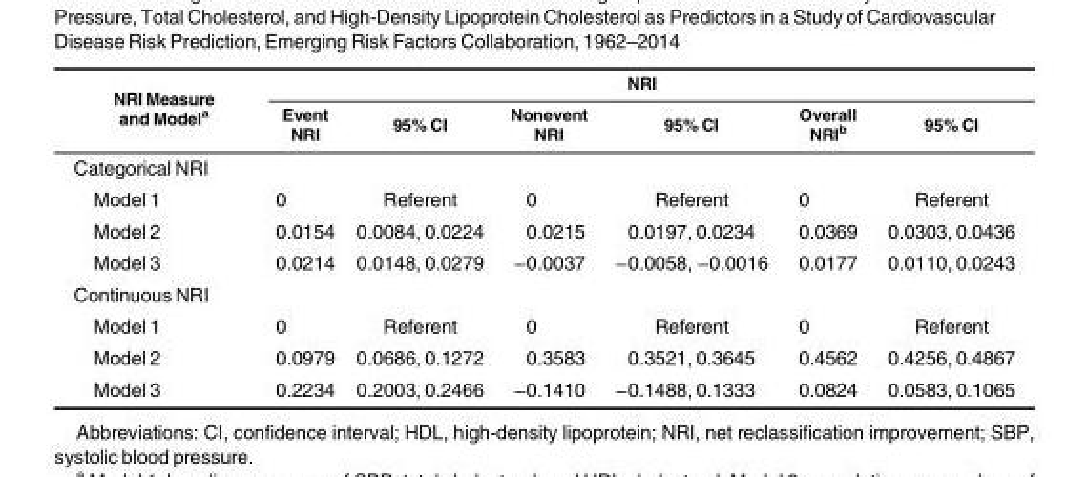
<table><thead><tr><td rowspan="2">NRI Measure and Model<sup>a</sup></td><td colspan="6">NRI</td></tr><tr><td>Event NRI</td><td>95% CI</td><td>Nonevent NRI</td><td>95% CI</td><td>Overall NRI<sup>b</sup></td><td>95% CI</td></tr></thead><tbody><tr><td colspan="7">Categorical NRI</td></tr><tr><td>Model 1</td><td>0</td><td>Referent</td><td>0</td><td>Referent</td><td>0</td><td>Referent</td></tr><tr><td>Model 2</td><td>0.0154</td><td>0.0084, 0.0224</td><td>0.0215</td><td>0.0197, 0.0234</td><td>0.0369</td><td>0.0303, 0.0436</td></tr><tr><td>Model 3</td><td>0.0214</td><td>0.0148, 0.0279</td><td>−0.0037</td><td>−0.0058, −0.0016</td><td>0.0177</td><td>0.0110, 0.0243</td></tr><tr><td colspan="7">Continuous NRI</td></tr><tr><td>Model 1</td><td>0</td><td>Referent</td><td>0</td><td>Referent</td><td>0</td><td>Referent</td></tr><tr><td>Model 2</td><td>0.0979</td><td>0.0686, 0.1272</td><td>0.3583</td><td>0.3521, 0.3645</td><td>0.4562</td><td>0.4256, 0.4867</td></tr><tr><td>Model 3</td><td>0.2234</td><td>0.2003, 0.2466</td><td>−0.1410</td><td>−0.1488, 0.1333</td><td>0.0824</td><td>0.0583, 0.1065</td></tr></tbody></table>